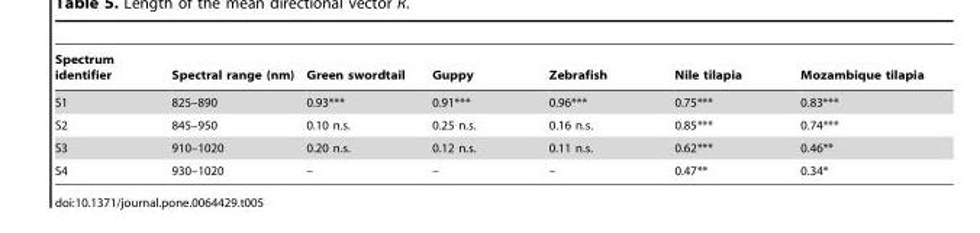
<table><thead><tr><td>Spectrum identifier</td><td>Spectral range (nm)</td><td>Green swordtail</td><td>Guppy</td><td>Zebrafish</td><td>Nile tilapia</td><td>Mozambique tilapia</td></tr></thead><tbody><tr><td>S1</td><td>825–890</td><td>0.93***</td><td>0.91***</td><td>0.96***</td><td>0.75***</td><td>0.83***</td></tr><tr><td>S2</td><td>845–950</td><td>0.10 n.s.</td><td>0.25 n.s.</td><td>0.16 n.s.</td><td>0.85***</td><td>0.74***</td></tr><tr><td>S3</td><td>910–1020</td><td>0.20 n.s.</td><td>0.12 n.s.</td><td>0.11 n.s.</td><td>0.62***</td><td>0.46**</td></tr><tr><td>S4</td><td>930–1020</td><td>–</td><td>–</td><td>–</td><td>0.47**</td><td>0.34*</td></tr></tbody></table>